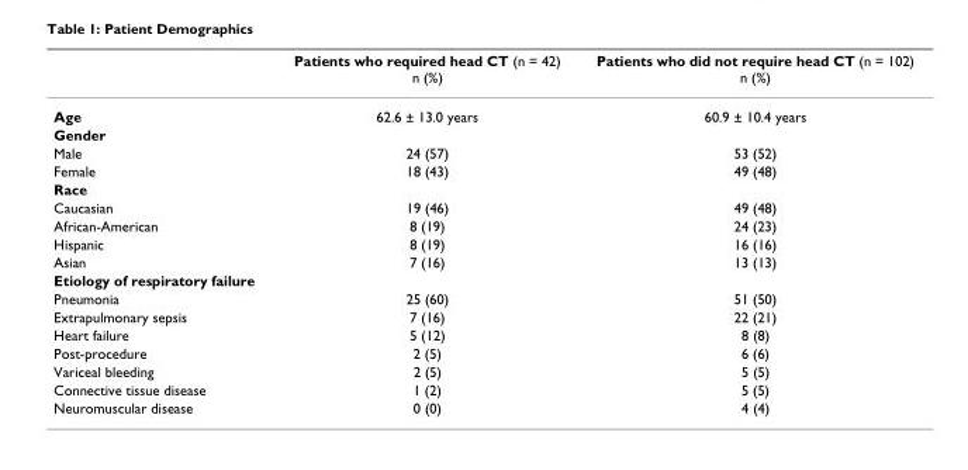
<table><thead><tr><td></td><td>Patients who required head CT (n = 42) n (%)</td><td>Patients who did not require head CT (n = 102) n (%)</td></tr></thead><tbody><tr><td>Age</td><td>62.6 ± 13.0 years</td><td>60.9 ± 10.4 years</td></tr><tr><td colspan="3">Gender</td></tr><tr><td>Male</td><td>24 (57)</td><td>53 (52)</td></tr><tr><td>Female</td><td>18 (43)</td><td>49 (48)</td></tr><tr><td colspan="3">Race</td></tr><tr><td>Caucasian</td><td>19 (46)</td><td>49 (48)</td></tr><tr><td>African-American</td><td>8 (19)</td><td>24 (23)</td></tr><tr><td>Hispanic</td><td>8 (19)</td><td>16 (16)</td></tr><tr><td>Asian</td><td>7 (16)</td><td>13 (13)</td></tr><tr><td colspan="3">Etiology of respiratory failure</td></tr><tr><td>Pneumonia</td><td>25 (60)</td><td>51 (50)</td></tr><tr><td>Extrapulmonary sepsis</td><td>7 (16)</td><td>22 (21)</td></tr><tr><td>Heart failure</td><td>5 (12)</td><td>8 (8)</td></tr><tr><td>Post-procedure</td><td>2 (5)</td><td>6 (6)</td></tr><tr><td>Variceal bleeding</td><td>2 (5)</td><td>5 (5)</td></tr><tr><td>Connective tissue disease</td><td>1 (2)</td><td>5 (5)</td></tr><tr><td>Neuromuscular disease</td><td>0 (0)</td><td>4 (4)</td></tr></tbody></table>